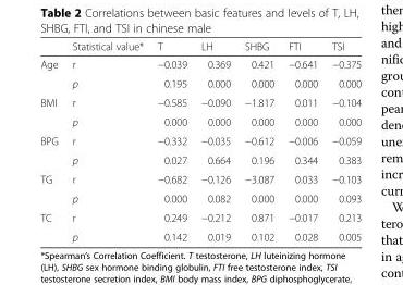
<table><thead><tr><td></td><td>Statistical value*</td><td>T</td><td>LH</td><td>SHBG</td><td>FTI</td><td>TSI</td></tr></thead><tbody><tr><td rowspan="2">Age</td><td>r</td><td>−0.039</td><td>0.369</td><td>0.421</td><td>−0.641</td><td>−0.375</td></tr><tr><td>p</td><td>0.195</td><td>0.000</td><td>0.000</td><td>0.000</td><td>0.000</td></tr><tr><td rowspan="2">BMI</td><td>r</td><td>−0.585</td><td>−0.090</td><td>−1.817</td><td>0.011</td><td>−0.104</td></tr><tr><td>p</td><td>0.000</td><td>0.000</td><td>0.000</td><td>0.000</td><td>0.000</td></tr><tr><td rowspan="2">BPG</td><td>r</td><td>−0.332</td><td>−0.035</td><td>−0.612</td><td>−0.006</td><td>−0.059</td></tr><tr><td>p</td><td>0.027</td><td>0.664</td><td>0.196</td><td>0.344</td><td>0.383</td></tr><tr><td rowspan="2">TG</td><td>r</td><td>−0.682</td><td>−0.126</td><td>−3.087</td><td>0.033</td><td>−0.103</td></tr><tr><td>p</td><td>0.000</td><td>0.082</td><td>0.000</td><td>0.000</td><td>0.093</td></tr><tr><td rowspan="2">TC</td><td>r</td><td>0.249</td><td>−0.212</td><td>0.871</td><td>−0.017</td><td>0.213</td></tr><tr><td>p</td><td>0.142</td><td>0.019</td><td>0.102</td><td>0.028</td><td>0.005</td></tr></tbody></table>